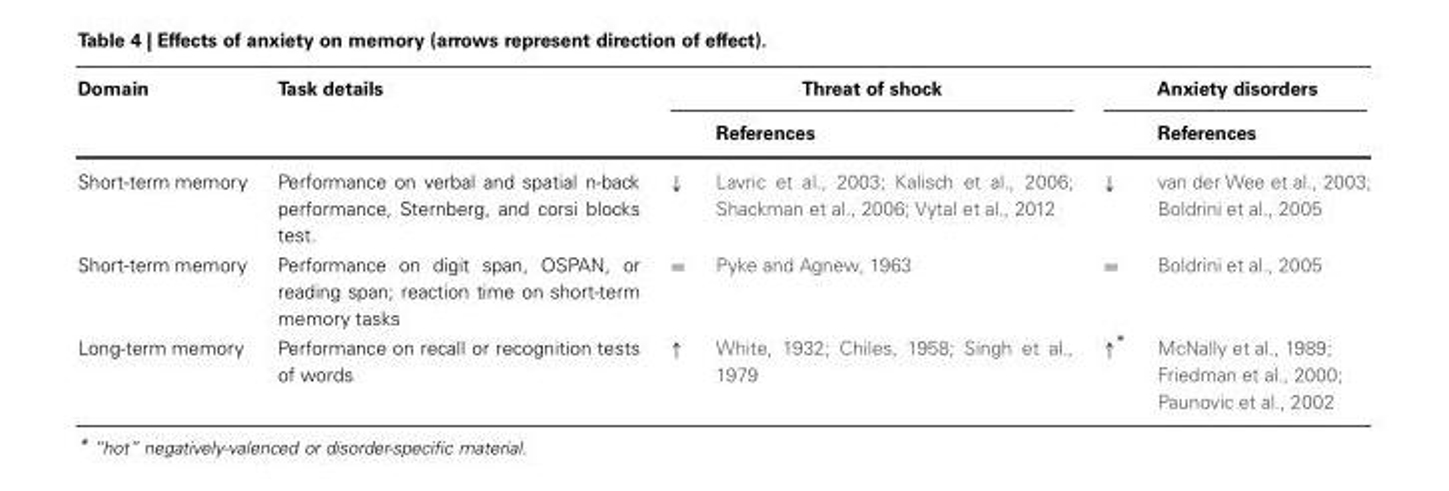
<table><thead><tr><td rowspan="2">Domain</td><td rowspan="2">Task details</td><td colspan="2">Threat of shock</td><td colspan="2">Anxiety disorders</td></tr><tr><td></td><td>References</td><td></td><td>References</td></tr></thead><tbody><tr><td>Short-term memory</td><td>Performance on verbal and spatial n-back performance, Sternberg, and corsi blocks test.</td><td>↓</td><td>Lavric et al., 2003; Kalisch et al., 2006; Shackman et al., 2006; Vytal et al., 2012</td><td>↓</td><td>van der Wee et al., 2003; Boldrini et al., 2005</td></tr><tr><td>Short-term memory</td><td>Performance on digit span, OSPAN, or reading span; reaction time on short-term memory tasks</td><td>=</td><td>Pyke and Agnew, 1963</td><td>=</td><td>Boldrini et al., 2005</td></tr><tr><td>Long-term memory</td><td>Performance on recall or recognition tests of words</td><td>↑</td><td>White, 1932; Chiles, 1958; Singh et al., 1979</td><td>↑*</td><td>McNally et al., 1989; Friedman et al., 2000; Paunovic et al., 2002</td></tr></tbody></table>